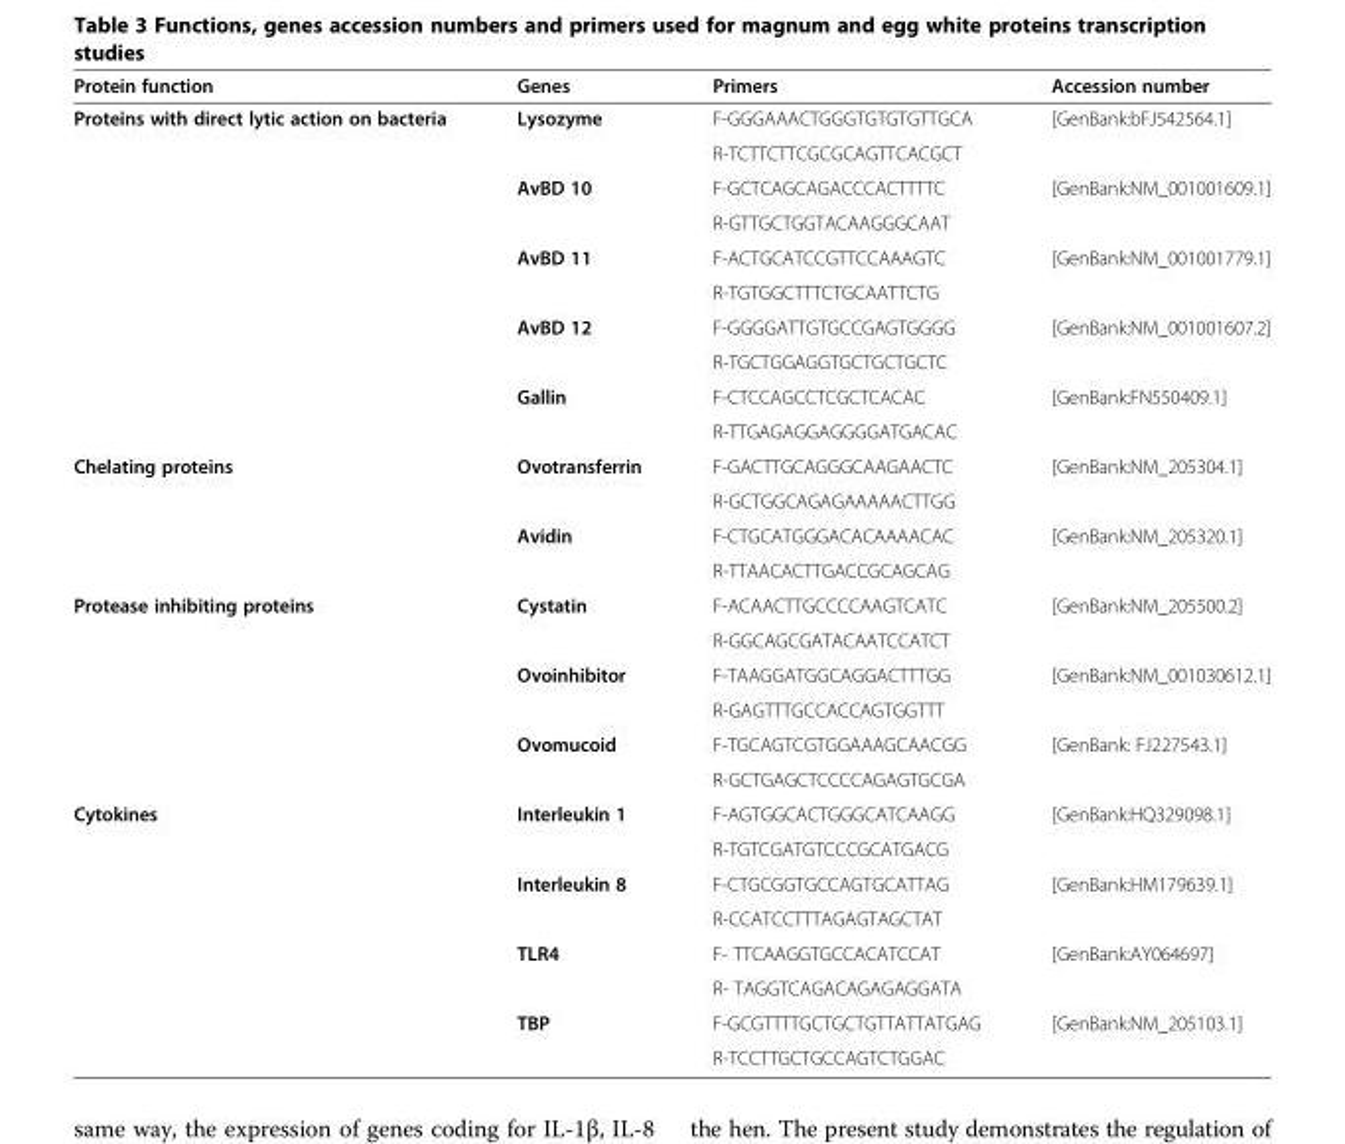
<table><thead><tr><td>Protein function</td><td>Genes</td><td>Primers</td><td>Accession number</td></tr></thead><tbody><tr><td rowspan="10">Proteins with direct lytic action on bacteria</td><td>Lysozyme</td><td>F-GGGAAACTGGGTGTGTGTTGCA</td><td rowspan="2">[GenBank:bFJ542564.1]</td></tr><tr><td></td><td>R-TCTTCTTCGCGCAGTTCACGCT</td></tr><tr><td>AvBD 10</td><td>F-GCTCAGCAGACCCACTTTTC</td><td rowspan="2">[GenBank:NM_001001609.1]</td></tr><tr><td></td><td>R-GTTGCTGGTACAAGGGCAAT</td></tr><tr><td>AvBD 11</td><td>F-ACTGCATCCGTTCCAAAGTC</td><td rowspan="2">[GenBank:NM_001001779.1]</td></tr><tr><td></td><td>R-TGTGGCTTTCTGCAATTCTG</td></tr><tr><td>AvBD 12</td><td>F-GGGGATTGTGCCGAGTGGGG</td><td rowspan="2">[GenBank:NM_001001607.2]</td></tr><tr><td></td><td>R-TGCTGGAGGTGCTGCTGCTC</td></tr><tr><td>Gallin</td><td>F-CTCCAGCCTCGCTCACAC</td><td rowspan="2">[GenBank:FN550409.1]</td></tr><tr><td></td><td>R-TTGAGAGGAGGGGATGACAC</td></tr><tr><td rowspan="4">Chelating proteins</td><td>Ovotransferrin</td><td>F-GACTTGCAGGGCAAGAACTC</td><td rowspan="2">[GenBank:NM_205304.1]</td></tr><tr><td></td><td>R-GCTGGCAGAGAAAAACTTGG</td></tr><tr><td>Avidin</td><td>F-CTGCATGGGACACAAAACAC</td><td rowspan="2">[GenBank:NM_205320.1]</td></tr><tr><td></td><td>R-TTAACACTTGACCGCAGCAG</td></tr><tr><td rowspan="6">Protease inhibiting proteins</td><td>Cystatin</td><td>F-ACAACTTGCCCCAAGTCATC</td><td rowspan="2">[GenBank:NM_205500.2]</td></tr><tr><td></td><td>R-GGCAGCGATACAATCCATCT</td></tr><tr><td>Ovoinhibitor</td><td>F-TAAGGATGGCAGGACTTTGG</td><td rowspan="2">[GenBank:NM_001030612.1]</td></tr><tr><td></td><td>R-GAGTTTGCCACCAGTGGTTT</td></tr><tr><td>Ovomucoid</td><td>F-TGCAGTCGTGGAAAGCAACGG</td><td rowspan="2">[GenBank: FJ227543.1]</td></tr><tr><td></td><td>R-GCTGAGCTCCCCAGAGTGCGA</td></tr><tr><td rowspan="8">Cytokines</td><td>Interleukin 1</td><td>F-AGTGGCACTGGGCATCAAGG</td><td rowspan="2">[GenBank:HQ329098.1]</td></tr><tr><td></td><td>R-TGTCGATGTCCCGCATGACG</td></tr><tr><td>Interleukin 8</td><td>F-CTGCGGTGCCAGTGCATTAG</td><td rowspan="2">[GenBank:HM179639.1]</td></tr><tr><td></td><td>R-CCATCCTTTAGAGTAGCTAT</td></tr><tr><td>TLR4</td><td>F- TTCAAGGTGCCACATCCAT</td><td rowspan="2">[GenBank:AY064697]</td></tr><tr><td></td><td>R- TAGGTCAGACAGAGAGGATA</td></tr><tr><td>TBP</td><td>F-GCGTTTTGCTGCTGTTATTATGAG</td><td rowspan="2">[GenBank:NM_205103.1]</td></tr><tr><td></td><td>R-TCCTTGCTGCCAGTCTGGAC</td></tr></tbody></table>